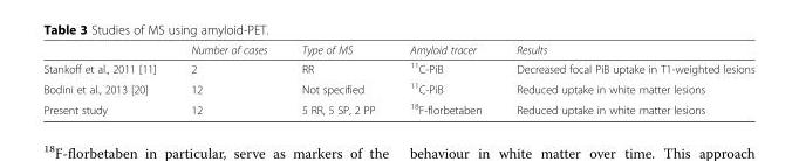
<table><thead><tr><td></td><td>Number of cases</td><td>Type of MS</td><td>Amyloid tracer</td><td>Results</td></tr></thead><tbody><tr><td>Stankoff et al., 2011 [11]</td><td>2</td><td>RR</td><td><sup>11</sup>C-PiB</td><td>Decreased focal PiB uptake in T1-weighted lesions</td></tr><tr><td>Bodini et al., 2013 [20]</td><td>12</td><td>Not specified</td><td><sup>11</sup>C-PiB</td><td>Reduced uptake in white matter lesions</td></tr><tr><td>Present study</td><td>12</td><td>5 RR, 5 SP, 2 PP</td><td><sup>18</sup>F-florbetaben</td><td>Reduced uptake in white matter lesions</td></tr></tbody></table>